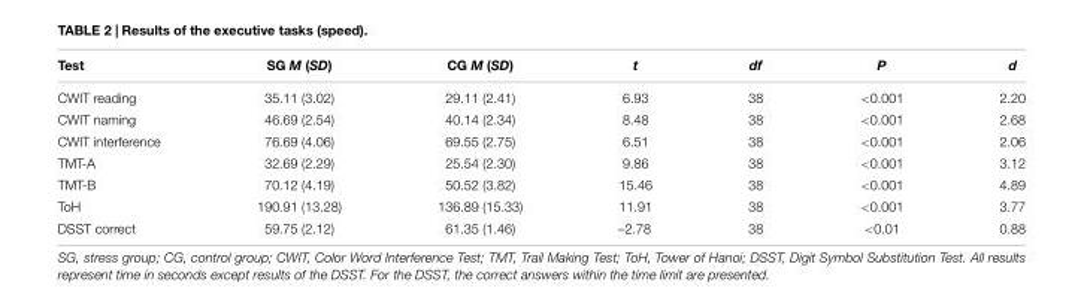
<table><thead><tr><td>Test</td><td>SG M (SD)</td><td>CG M (SD)</td><td>t</td><td>df</td><td>P</td><td>d</td></tr></thead><tbody><tr><td>CWIT reading</td><td>35.11 (3.02)</td><td>29.11 (2.41)</td><td>6.93</td><td>38</td><td>&lt;0.001</td><td>2.20</td></tr><tr><td>CWIT naming</td><td>46.69 (2.54)</td><td>40.14 (2.34)</td><td>8.48</td><td>38</td><td>&lt;0.001</td><td>2.68</td></tr><tr><td>CWIT interference</td><td>76.69 (4.06)</td><td>69.55 (2.75)</td><td>6.51</td><td>38</td><td>&lt;0.001</td><td>2.06</td></tr><tr><td>TMT-A</td><td>32.69 (2.29)</td><td>25.54 (2.30)</td><td>9.86</td><td>38</td><td>&lt;0.001</td><td>3.12</td></tr><tr><td>TMT-B</td><td>70.12 (4.19)</td><td>50.52 (3.82)</td><td>15.46</td><td>38</td><td>&lt;0.001</td><td>4.89</td></tr><tr><td>ToH</td><td>190.91 (13.28)</td><td>136.89 (15.33)</td><td>11.91</td><td>38</td><td>&lt;0.001</td><td>3.77</td></tr><tr><td>DSST correct</td><td>59.75 (2.12)</td><td>61.35 (1.46)</td><td>–2.78</td><td>38</td><td>&lt;0.01</td><td>0.88</td></tr></tbody></table>